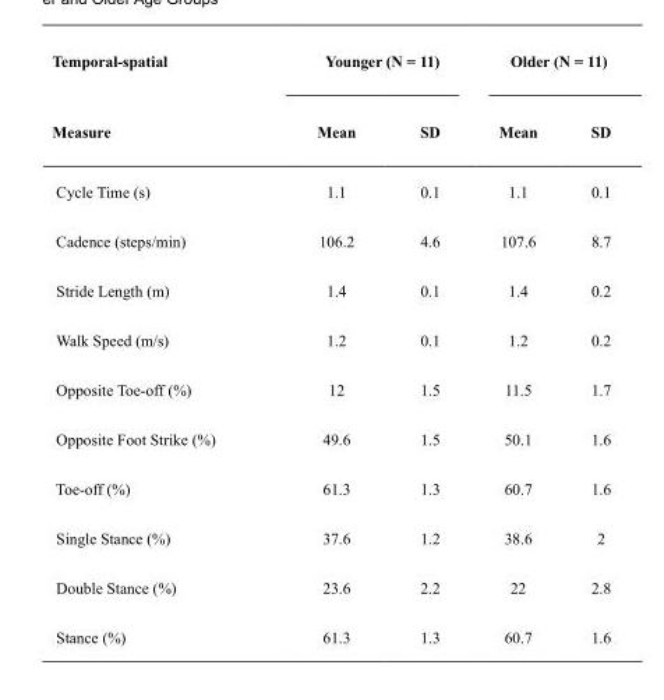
<table><thead><tr><td rowspan="2">Temporal-spatial Measure</td><td colspan="2">Younger (N = 11)</td><td colspan="2">Older (N = 11)</td></tr><tr><td>Mean</td><td>SD</td><td>Mean</td><td>SD</td></tr></thead><tbody><tr><td>Cycle Time (s)</td><td>1.1</td><td>0.1</td><td>1.1</td><td>0.1</td></tr><tr><td>Cadence (steps/min)</td><td>106.2</td><td>4.6</td><td>107.6</td><td>8.7</td></tr><tr><td>Stride Length (m)</td><td>1.4</td><td>0.1</td><td>1.4</td><td>0.2</td></tr><tr><td>Walk Speed (m/s)</td><td>1.2</td><td>0.1</td><td>1.2</td><td>0.2</td></tr><tr><td>Opposite Toe-off (%)</td><td>12</td><td>1.5</td><td>11.5</td><td>1.7</td></tr><tr><td>Opposite Foot Strike (%)</td><td>49.6</td><td>1.5</td><td>50.1</td><td>1.6</td></tr><tr><td>Toe-off (%)</td><td>61.3</td><td>1.3</td><td>60.7</td><td>1.6</td></tr><tr><td>Single Stance (%)</td><td>37.6</td><td>1.2</td><td>38.6</td><td>2</td></tr><tr><td>Double Stance (%)</td><td>23.6</td><td>2.2</td><td>22</td><td>2.8</td></tr><tr><td>Stance (%)</td><td>61.3</td><td>1.3</td><td>60.7</td><td>1.6</td></tr></tbody></table>